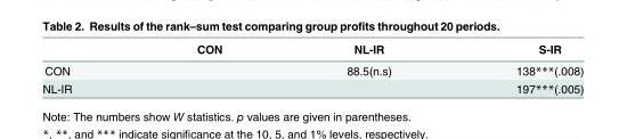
<table><thead><tr><td></td><td>CON</td><td>NL-IR</td><td>S-IR</td></tr></thead><tbody><tr><td>CON</td><td></td><td>88.5(n.s)</td><td>138***(.008)</td></tr><tr><td>NL-IR</td><td></td><td></td><td>197***(.005)</td></tr></tbody></table>